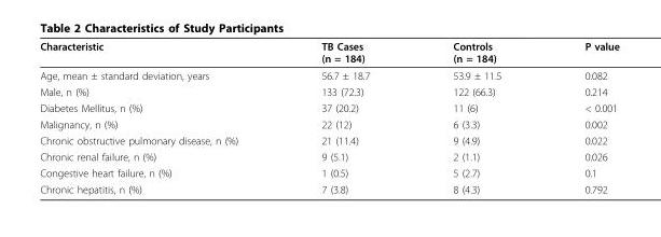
<table><thead><tr><td>Characteristic</td><td>TB Cases (n = 184)</td><td>Controls (n = 184)</td><td>P value</td></tr></thead><tbody><tr><td>Age, mean ± standard deviation, years</td><td>56.7 ± 18.7</td><td>53.9 ± 11.5</td><td>0.082</td></tr><tr><td>Male, n (%)</td><td>133 (72.3)</td><td>122 (66.3)</td><td>0.214</td></tr><tr><td>Diabetes Mellitus, n (%)</td><td>37 (20.2)</td><td>11 (6)</td><td>&lt; 0.001</td></tr><tr><td>Malignancy, n (%)</td><td>22 (12)</td><td>6 (3.3)</td><td>0.002</td></tr><tr><td>Chronic obstructive pulmonary disease, n (%)</td><td>21 (11.4)</td><td>9 (4.9)</td><td>0.022</td></tr><tr><td>Chronic renal failure, n (%)</td><td>9 (5.1)</td><td>2 (1.1)</td><td>0.026</td></tr><tr><td>Congestive heart failure, n (%)</td><td>1 (0.5)</td><td>5 (2.7)</td><td>0.1</td></tr><tr><td>Chronic hepatitis, n (%)</td><td>7 (3.8)</td><td>8 (4.3)</td><td>0.792</td></tr></tbody></table>